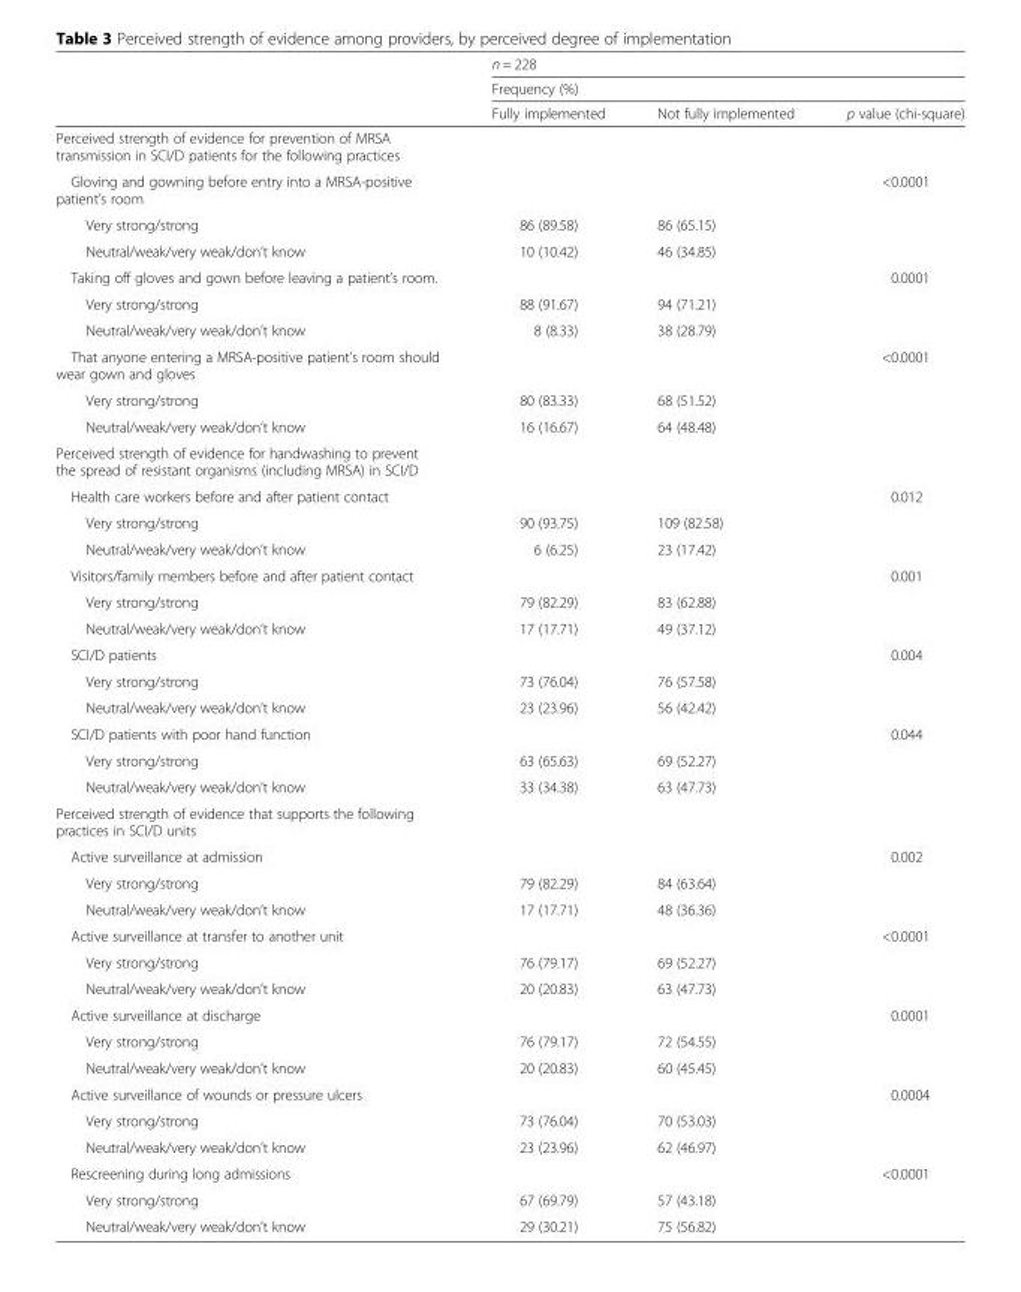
<table><thead><tr><td rowspan="3"></td><td rowspan="2" colspan="3">n = 228 Frequency (%)</td></tr><tr></tr><tr><td>Fully implemented</td><td>Not fully implemented</td><td>p value (chi-square)</td></tr></thead><tbody><tr><td colspan="4">Perceived strength of evidence for prevention of MRSA transmission in SCI/D patients for the following practices</td></tr><tr><td>Gloving and gowning before entry into a MRSA-positive patient’s room</td><td></td><td></td><td>&lt;0.0001</td></tr><tr><td>Very strong/strong</td><td>86 (89.58)</td><td>86 (65.15)</td><td></td></tr><tr><td>Neutral/weak/very weak/don’t know</td><td>10 (10.42)</td><td>46 (34.85)</td><td></td></tr><tr><td>Taking off gloves and gown before leaving a patient’s room.</td><td></td><td></td><td>0.0001</td></tr><tr><td>Very strong/strong</td><td>88 (91.67)</td><td>94 (71.21)</td><td></td></tr><tr><td>Neutral/weak/very weak/don’t know</td><td>8 (8.33)</td><td>38 (28.79)</td><td></td></tr><tr><td>That anyone entering a MRSA-positive patient’s room should wear gown and gloves</td><td></td><td></td><td>&lt;0.0001</td></tr><tr><td>Very strong/strong</td><td>80 (83.33)</td><td>68 (51.52)</td><td></td></tr><tr><td>Neutral/weak/very weak/don’t know</td><td>16 (16.67)</td><td>64 (48.48)</td><td></td></tr><tr><td colspan="4">Perceived strength of evidence for handwashing to prevent the spread of resistant organisms (including MRSA) in SCI/D</td></tr><tr><td>Health care workers before and after patient contact</td><td></td><td></td><td>0.012</td></tr><tr><td>Very strong/strong</td><td>90 (93.75)</td><td>109 (82.58)</td><td></td></tr><tr><td>Neutral/weak/very weak/don’t know</td><td>6 (6.25)</td><td>23 (17.42)</td><td></td></tr><tr><td>Visitors/family members before and after patient contact</td><td></td><td></td><td>0.001</td></tr><tr><td>Very strong/strong</td><td>79 (82.29)</td><td>83 (62.88)</td><td></td></tr><tr><td>Neutral/weak/very weak/don’t know</td><td>17 (17.71)</td><td>49 (37.12)</td><td></td></tr><tr><td>SCI/D patients</td><td></td><td></td><td>0.004</td></tr><tr><td>Very strong/strong</td><td>73 (76.04)</td><td>76 (57.58)</td><td></td></tr><tr><td>Neutral/weak/very weak/don’t know</td><td>23 (23.96)</td><td>56 (42.42)</td><td></td></tr><tr><td>SCI/D patients with poor hand function</td><td></td><td></td><td>0.044</td></tr><tr><td>Very strong/strong</td><td>63 (65.63)</td><td>69 (52.27)</td><td></td></tr><tr><td>Neutral/weak/very weak/don’t know</td><td>33 (34.38)</td><td>63 (47.73)</td><td></td></tr><tr><td colspan="4">Perceived strength of evidence that supports the following practices in SCI/D units</td></tr><tr><td>Active surveillance at admission</td><td></td><td></td><td>0.002</td></tr><tr><td>Very strong/strong</td><td>79 (82.29)</td><td>84 (63.64)</td><td></td></tr><tr><td>Neutral/weak/very weak/don’t know</td><td>17 (17.71)</td><td>48 (36.36)</td><td></td></tr><tr><td>Active surveillance at transfer to another unit</td><td></td><td></td><td>&lt;0.0001</td></tr><tr><td>Very strong/strong</td><td>76 (79.17)</td><td>69 (52.27)</td><td></td></tr><tr><td>Neutral/weak/very weak/don’t know</td><td>20 (20.83)</td><td>63 (47.73)</td><td></td></tr><tr><td>Active surveillance at discharge</td><td></td><td></td><td>0.0001</td></tr><tr><td>Very strong/strong</td><td>76 (79.17)</td><td>72 (54.55)</td><td></td></tr><tr><td>Neutral/weak/very weak/don’t know</td><td>20 (20.83)</td><td>60 (45.45)</td><td></td></tr><tr><td>Active surveillance of wounds or pressure ulcers</td><td></td><td></td><td>0.0004</td></tr><tr><td>Very strong/strong</td><td>73 (76.04)</td><td>70 (53.03)</td><td></td></tr><tr><td>Neutral/weak/very weak/don’t know</td><td>23 (23.96)</td><td>62 (46.97)</td><td></td></tr><tr><td>Rescreening during long admissions</td><td></td><td></td><td>&lt;0.0001</td></tr><tr><td>Very strong/strong</td><td>67 (69.79)</td><td>57 (43.18)</td><td></td></tr><tr><td>Neutral/weak/very weak/don’t know</td><td>29 (30.21)</td><td>75 (56.82)</td><td></td></tr></tbody></table>